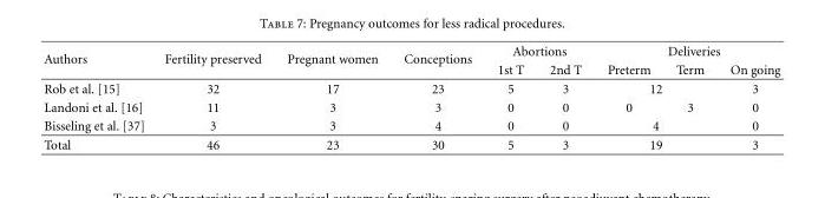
<table><thead><tr><td rowspan="2">Authors</td><td rowspan="2">Fertility preserved</td><td rowspan="2">Pregnant women</td><td rowspan="2">Conceptions</td><td colspan="2">Abortions</td><td colspan="3">Deliveries</td></tr><tr><td>1st T</td><td>2nd T</td><td>Preterm</td><td>Term</td><td>On going</td></tr></thead><tbody><tr><td>Rob et al. [15]</td><td>32</td><td>17</td><td>23</td><td>5</td><td>3</td><td colspan="2">12</td><td>3</td></tr><tr><td>Landoni et al. [16]</td><td>11</td><td>3</td><td>3</td><td>0</td><td>0</td><td>0</td><td>3</td><td>0</td></tr><tr><td>Bisseling et al. [37]</td><td>3</td><td>3</td><td>4</td><td>0</td><td>0</td><td colspan="2">4</td><td>0</td></tr><tr><td>Total</td><td>46</td><td>23</td><td>30</td><td>5</td><td>3</td><td colspan="2">19</td><td>3</td></tr></tbody></table>